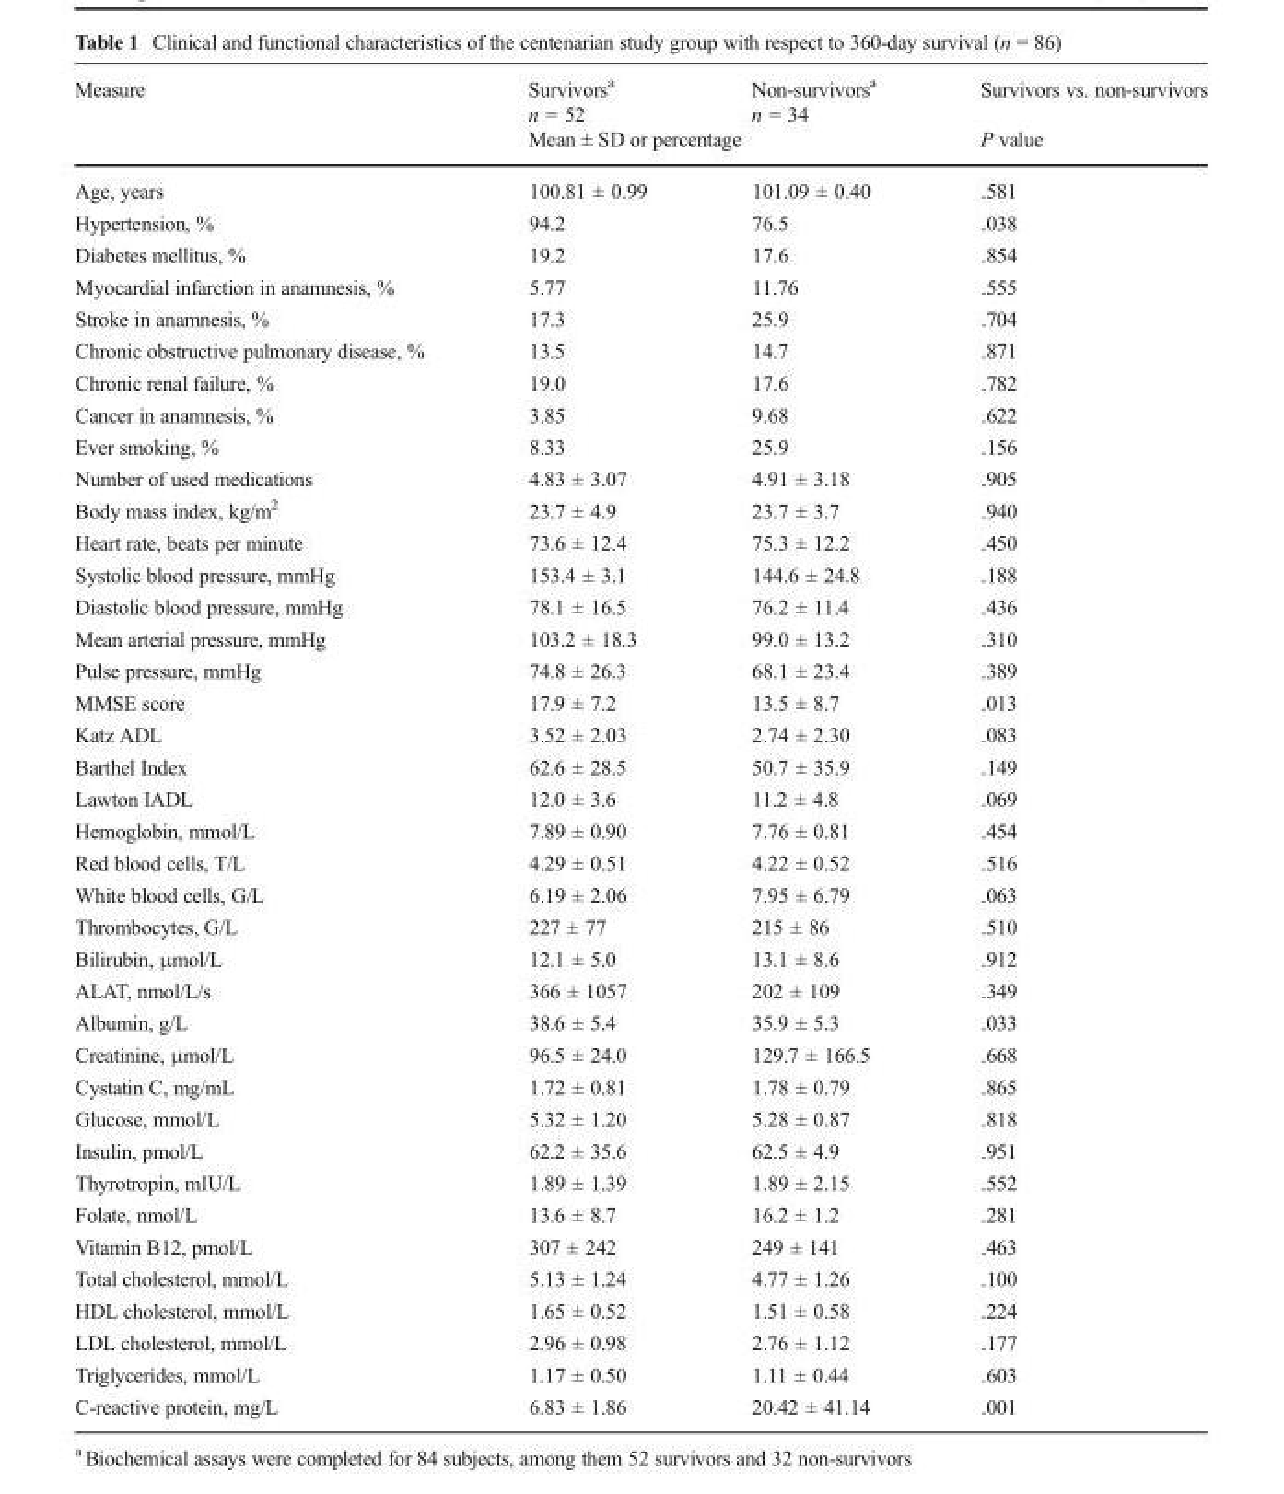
<table><thead><tr><td rowspan="2">Measure</td><td>Survivors<sup>a</sup> n = 52</td><td>Non-survivors<sup>a</sup> n = 34</td><td rowspan="2">Survivors vs. non-survivors P value</td></tr><tr><td colspan="2">Mean ± SD or percentage</td></tr></thead><tbody><tr><td>Age, years</td><td>100.81 ± 0.99</td><td>101.09 ± 0.40</td><td>.581</td></tr><tr><td>Hypertension, %</td><td>94.2</td><td>76.5</td><td>.038</td></tr><tr><td>Diabetes mellitus, %</td><td>19.2</td><td>17.6</td><td>.854</td></tr><tr><td>Myocardial infarction in anamnesis, %</td><td>5.77</td><td>11.76</td><td>.555</td></tr><tr><td>Stroke in anamnesis, %</td><td>17.3</td><td>25.9</td><td>.704</td></tr><tr><td>Chronic obstructive pulmonary disease, %</td><td>13.5</td><td>14.7</td><td>.871</td></tr><tr><td>Chronic renal failure, %</td><td>19.0</td><td>17.6</td><td>.782</td></tr><tr><td>Cancer in anamnesis, %</td><td>3.85</td><td>9.68</td><td>.622</td></tr><tr><td>Ever smoking, %</td><td>8.33</td><td>25.9</td><td>.156</td></tr><tr><td>Number of used medications</td><td>4.83 ± 3.07</td><td>4.91 ± 3.18</td><td>.905</td></tr><tr><td>Body mass index, kg/m<sup>2</sup></td><td>23.7 ± 4.9</td><td>23.7 ± 3.7</td><td>.940</td></tr><tr><td>Heart rate, beats per minute</td><td>73.6 ± 12.4</td><td>75.3 ± 12.2</td><td>.450</td></tr><tr><td>Systolic blood pressure, mmHg</td><td>153.4 ± 3.1</td><td>144.6 ± 24.8</td><td>.188</td></tr><tr><td>Diastolic blood pressure, mmHg</td><td>78.1 ± 16.5</td><td>76.2 ± 11.4</td><td>.436</td></tr><tr><td>Mean arterial pressure, mmHg</td><td>103.2 ± 18.3</td><td>99.0 ± 13.2</td><td>.310</td></tr><tr><td>Pulse pressure, mmHg</td><td>74.8 ± 26.3</td><td>68.1 ± 23.4</td><td>.389</td></tr><tr><td>MMSE score</td><td>17.9 ± 7.2</td><td>13.5 ± 8.7</td><td>.013</td></tr><tr><td>Katz ADL</td><td>3.52 ± 2.03</td><td>2.74 ± 2.30</td><td>.083</td></tr><tr><td>Barthel Index</td><td>62.6 ± 28.5</td><td>50.7 ± 35.9</td><td>.149</td></tr><tr><td>Lawton IADL</td><td>12.0 ± 3.6</td><td>11.2 ± 4.8</td><td>.069</td></tr><tr><td>Hemoglobin, mmol/L</td><td>7.89 ± 0.90</td><td>7.76 ± 0.81</td><td>.454</td></tr><tr><td>Red blood cells, T/L</td><td>4.29 ± 0.51</td><td>4.22 ± 0.52</td><td>.516</td></tr><tr><td>White blood cells, G/L</td><td>6.19 ± 2.06</td><td>7.95 ± 6.79</td><td>.063</td></tr><tr><td>Thrombocytes, G/L</td><td>227 ± 77</td><td>215 ± 86</td><td>.510</td></tr><tr><td>Bilirubin, μmol/L</td><td>12.1 ± 5.0</td><td>13.1 ± 8.6</td><td>.912</td></tr><tr><td>ALAT, nmol/L/s</td><td>366 ± 1057</td><td>202 ± 109</td><td>.349</td></tr><tr><td>Albumin, g/L</td><td>38.6 ± 5.4</td><td>35.9 ± 5.3</td><td>.033</td></tr><tr><td>Creatinine, μmol/L</td><td>96.5 ± 24.0</td><td>129.7 ± 166.5</td><td>.668</td></tr><tr><td>Cystatin C, mg/mL</td><td>1.72 ± 0.81</td><td>1.78 ± 0.79</td><td>.865</td></tr><tr><td>Glucose, mmol/L</td><td>5.32 ± 1.20</td><td>5.28 ± 0.87</td><td>.818</td></tr><tr><td>Insulin, pmol/L</td><td>62.2 ± 35.6</td><td>62.5 ± 4.9</td><td>.951</td></tr><tr><td>Thyrotropin, mIU/L</td><td>1.89 ± 1.39</td><td>1.89 ± 2.15</td><td>.552</td></tr><tr><td>Folate, nmol/L</td><td>13.6 ± 8.7</td><td>16.2 ± 1.2</td><td>.281</td></tr><tr><td>Vitamin B12, pmol/L</td><td>307 ± 242</td><td>249 ± 141</td><td>.463</td></tr><tr><td>Total cholesterol, mmol/L</td><td>5.13 ± 1.24</td><td>4.77 ± 1.26</td><td>.100</td></tr><tr><td>HDL cholesterol, mmol/L</td><td>1.65 ± 0.52</td><td>1.51 ± 0.58</td><td>.224</td></tr><tr><td>LDL cholesterol, mmol/L</td><td>2.96 ± 0.98</td><td>2.76 ± 1.12</td><td>.177</td></tr><tr><td>Triglycerides, mmol/L</td><td>1.17 ± 0.50</td><td>1.11 ± 0.44</td><td>.603</td></tr><tr><td>C-reactive protein, mg/L</td><td>6.83 ± 1.86</td><td>20.42 ± 41.14</td><td>.001</td></tr></tbody></table>